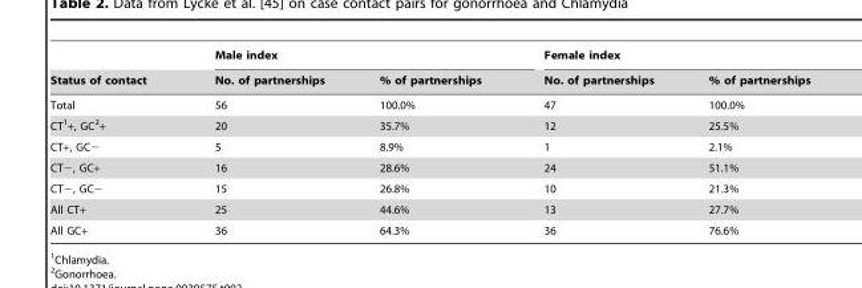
<table><thead><tr><td rowspan="2">Status of contact</td><td colspan="2">Male index</td><td colspan="2">Female index</td></tr><tr><td>No. of partnerships</td><td>% of partnerships</td><td>No. of partnerships</td><td>% of partnerships</td></tr></thead><tbody><tr><td>Total</td><td>56</td><td>100.0%</td><td>47</td><td>100.0%</td></tr><tr><td>CT<sup>1</sup>+, GC<sup>2</sup>+</td><td>20</td><td>35.7%</td><td>12</td><td>25.5%</td></tr><tr><td>CT+, GC−</td><td>5</td><td>8.9%</td><td>1</td><td>2.1%</td></tr><tr><td>CT−, GC+</td><td>16</td><td>28.6%</td><td>24</td><td>51.1%</td></tr><tr><td>CT−, GC−</td><td>15</td><td>26.8%</td><td>10</td><td>21.3%</td></tr><tr><td>All CT+</td><td>25</td><td>44.6%</td><td>13</td><td>27.7%</td></tr><tr><td>All GC+</td><td>36</td><td>64.3%</td><td>36</td><td>76.6%</td></tr></tbody></table>